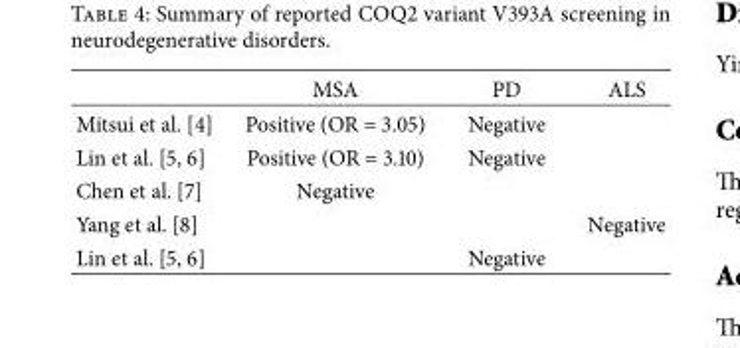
<table><thead><tr><td></td><td>MSA</td><td>PD</td><td>ALS</td></tr></thead><tbody><tr><td>Mitsui et al. [4]</td><td>Positive (OR = 3.05)</td><td>Negative</td><td></td></tr><tr><td>Lin et al. [5, 6]</td><td>Positive (OR = 3.10)</td><td>Negative</td><td></td></tr><tr><td>Chen et al. [7]</td><td>Negative</td><td></td><td></td></tr><tr><td>Yang et al. [8]</td><td></td><td></td><td>Negative</td></tr><tr><td>Lin et al. [5, 6]</td><td></td><td>Negative</td><td></td></tr></tbody></table>